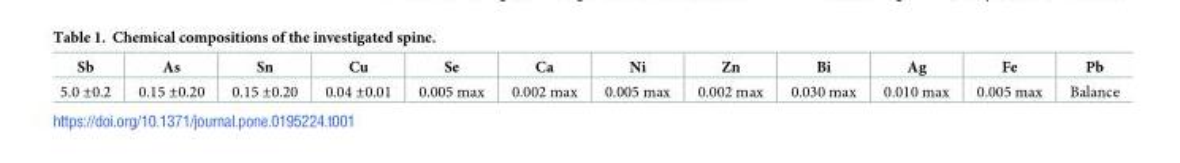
<table><thead><tr><td>Sb</td><td>As</td><td>Sn</td><td>Cu</td><td>Se</td><td>Ca</td><td>Ni</td><td>Zn</td><td>Bi</td><td>Ag</td><td>Fe</td><td>Pb</td></tr></thead><tbody><tr><td>5.0 ±0.2</td><td>0.15 ±0.20</td><td>0.15 ±0.20</td><td>0.04 ±0.01</td><td>0.005 max</td><td>0.002 max</td><td>0.005 max</td><td>0.002 max</td><td>0.030 max</td><td>0.010 max</td><td>0.005 max</td><td>Balance</td></tr></tbody></table>